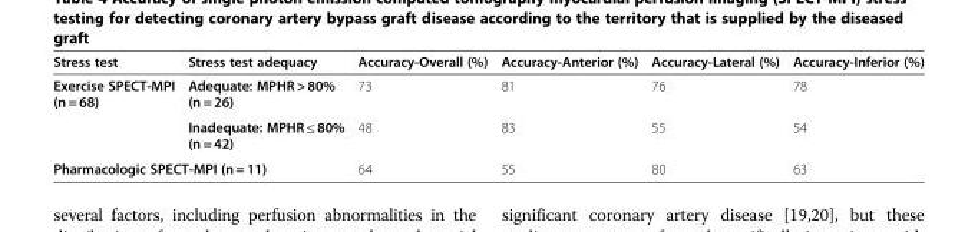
<table><thead><tr><td>Stress test</td><td>Stress test adequacy</td><td>Accuracy-Overall (%)</td><td>Accuracy-Anterior (%)</td><td>Accuracy-Lateral (%)</td><td>Accuracy-Inferior (%)</td></tr></thead><tbody><tr><td rowspan="2">Exercise SPECT-MPI (n = 68)</td><td>Adequate: MPHR &gt; 80% (n = 26)</td><td>73</td><td>81</td><td>76</td><td>78</td></tr><tr><td>Inadequate: MPHR ≤ 80% (n = 42)</td><td>48</td><td>83</td><td>55</td><td>54</td></tr><tr><td colspan="2">Pharmacologic SPECT-MPI (n = 11)</td><td>64</td><td>55</td><td>80</td><td>63</td></tr></tbody></table>